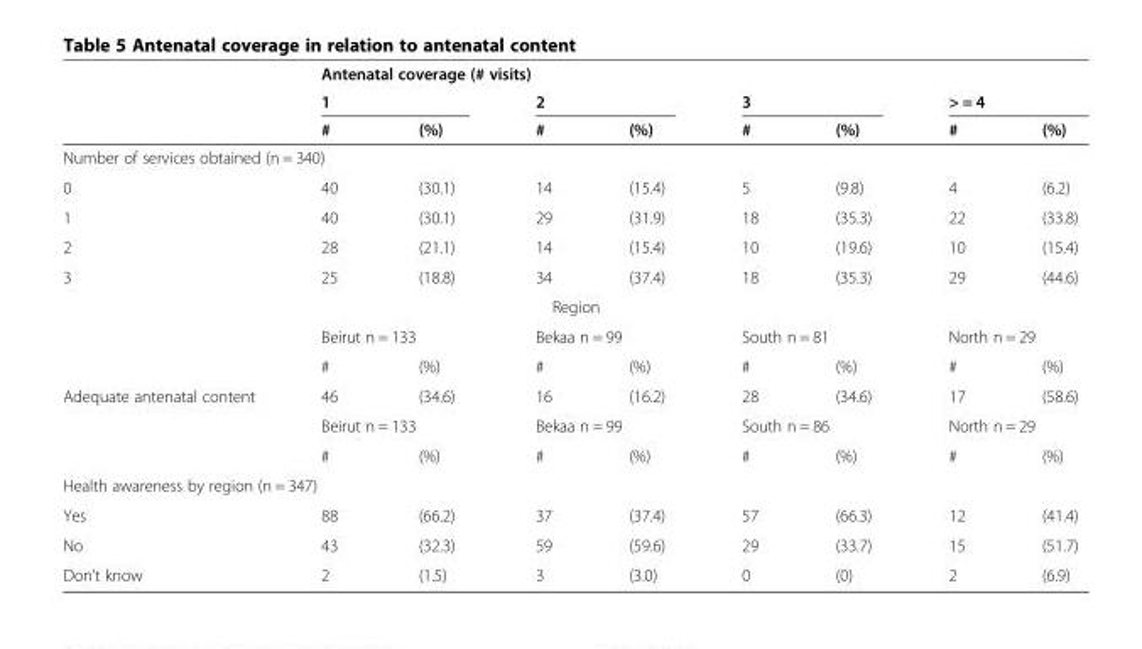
<table><thead><tr><td rowspan="3"></td><td colspan="8">Antenatal coverage (# visits)</td></tr><tr><td colspan="2">1</td><td colspan="2">2</td><td colspan="2">3</td><td colspan="2">&gt; = 4</td></tr><tr><td>#</td><td>(%)</td><td>#</td><td>(%)</td><td>#</td><td>(%)</td><td>#</td><td>(%)</td></tr></thead><tbody><tr><td colspan="9">Number of services obtained (n = 340)</td></tr><tr><td>0</td><td>40</td><td>(30.1)</td><td>14</td><td>(15.4)</td><td>5</td><td>(9.8)</td><td>4</td><td>(6.2)</td></tr><tr><td>1</td><td>40</td><td>(30.1)</td><td>29</td><td>(31.9)</td><td>18</td><td>(35.3)</td><td>22</td><td>(33.8)</td></tr><tr><td>2</td><td>28</td><td>(21.1)</td><td>14</td><td>(15.4)</td><td>10</td><td>(19.6)</td><td>10</td><td>(15.4)</td></tr><tr><td>3</td><td>25</td><td>(18.8)</td><td>34</td><td>(37.4)</td><td>18</td><td>(35.3)</td><td>29</td><td>(44.6)</td></tr><tr><td colspan="9">Region</td></tr><tr><td></td><td colspan="2">Beirut n = 133</td><td colspan="2">Bekaa n = 99</td><td colspan="2">South n = 81</td><td colspan="2">North n = 29</td></tr><tr><td></td><td>#</td><td>(%)</td><td>#</td><td>(%)</td><td>#</td><td>(%)</td><td>#</td><td>(%)</td></tr><tr><td rowspan="3">Adequate antenatal content</td><td>46</td><td>(34.6)</td><td>16</td><td>(16.2)</td><td>28</td><td>(34.6)</td><td>17</td><td>(58.6)</td></tr><tr><td colspan="2">Beirut n = 133</td><td colspan="2">Bekaa n = 99</td><td colspan="2">South n = 86</td><td colspan="2">North n = 29</td></tr><tr><td>#</td><td>(%)</td><td>#</td><td>(%)</td><td>#</td><td>(%)</td><td>#</td><td>(%)</td></tr><tr><td colspan="9">Health awareness by region (n = 347)</td></tr><tr><td>Yes</td><td>88</td><td>(66.2)</td><td>37</td><td>(37.4)</td><td>57</td><td>(66.3)</td><td>12</td><td>(41.4)</td></tr><tr><td>No</td><td>43</td><td>(32.3)</td><td>59</td><td>(59.6)</td><td>29</td><td>(33.7)</td><td>15</td><td>(51.7)</td></tr><tr><td>Don’t know</td><td>2</td><td>(1.5)</td><td>3</td><td>(3.0)</td><td>0</td><td>(0)</td><td>2</td><td>(6.9)</td></tr></tbody></table>